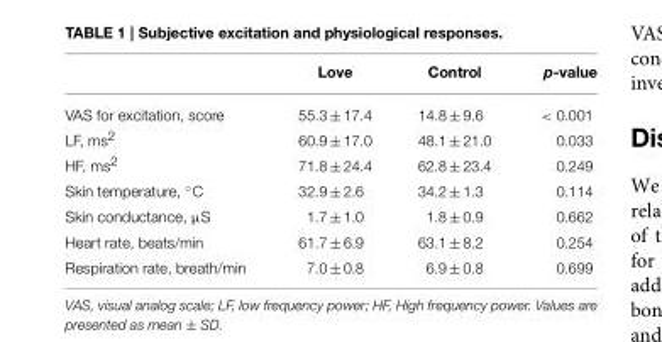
<table><thead><tr><td></td><td>Love</td><td>Control</td><td>p-value</td></tr></thead><tbody><tr><td>VAS for excitation, score</td><td>55.3 ± 17.4</td><td>14.8 ± 9.6</td><td>&lt; 0.001</td></tr><tr><td>LF, ms<sup>2</sup></td><td>60.9 ± 17.0</td><td>48.1 ± 21.0</td><td>0.033</td></tr><tr><td>HF, ms<sup>2</sup></td><td>71.8 ± 24.4</td><td>62.8 ± 23.4</td><td>0.249</td></tr><tr><td>Skin temperature, ◦C</td><td>32.9 ± 2.6</td><td>34.2 ± 1.3</td><td>0.114</td></tr><tr><td>Skin conductance, µS</td><td>1.7 ± 1.0</td><td>1.8 ± 0.9</td><td>0.662</td></tr><tr><td>Heart rate, beats/min</td><td>61.7 ± 6.9</td><td>63.1 ± 8.2</td><td>0.254</td></tr><tr><td>Respiration rate, breath/min</td><td>7.0 ± 0.8</td><td>6.9 ± 0.8</td><td>0.699</td></tr></tbody></table>